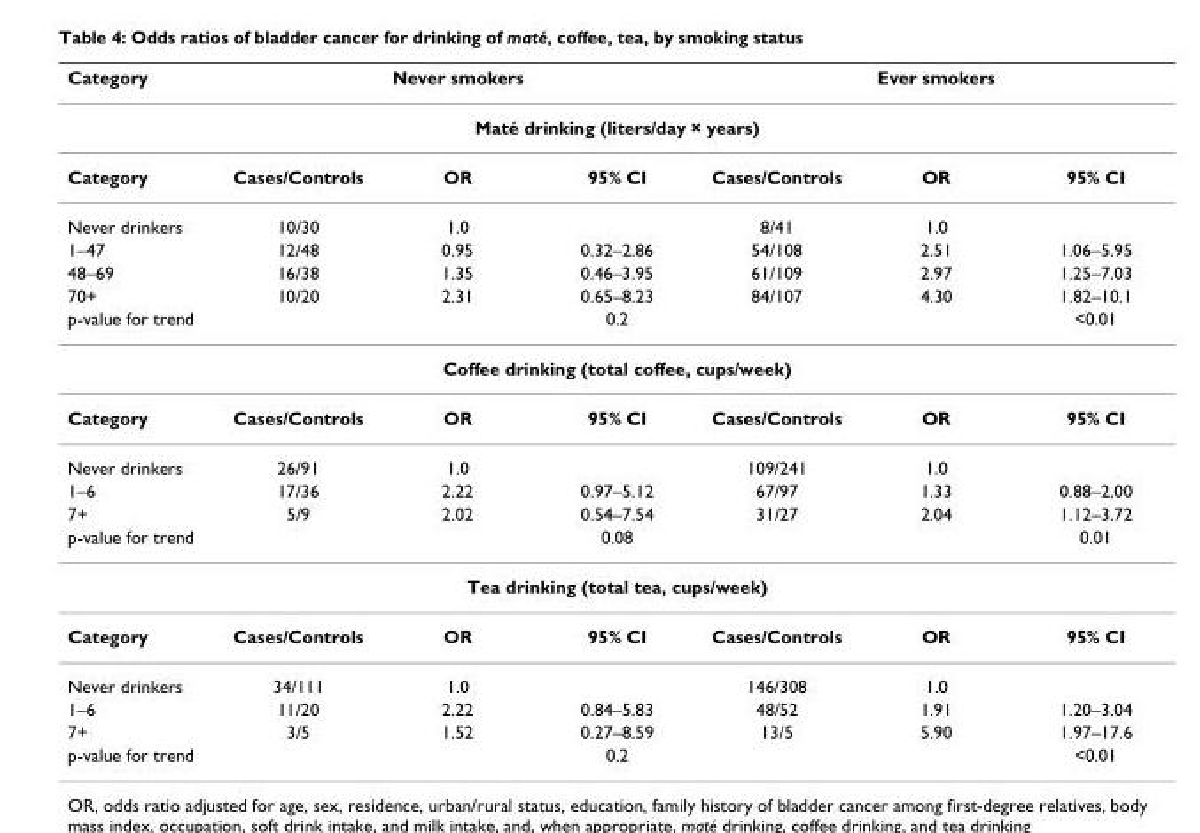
<table><thead><tr><td>Category</td><td colspan="3">Never smokers</td><td colspan="3">Ever smokers</td></tr><tr><td colspan="7">Maté drinking (liters/day × years)</td></tr><tr><td>Category</td><td>Cases/Controls</td><td>OR</td><td>95% CI</td><td>Cases/Controls</td><td>OR</td><td>95% CI</td></tr></thead><tbody><tr><td>Never drinkers</td><td>10/30</td><td>1.0</td><td></td><td>8/41</td><td>1.0</td><td></td></tr><tr><td>1–47</td><td>12/48</td><td>0.95</td><td>0.32–2.86</td><td>54/108</td><td>2.51</td><td>1.06–5.95</td></tr><tr><td>48–69</td><td>16/38</td><td>1.35</td><td>0.46–3.95</td><td>61/109</td><td>2.97</td><td>1.25–7.03</td></tr><tr><td>70+</td><td>10/20</td><td>2.31</td><td>0.65–8.23</td><td>84/107</td><td>4.30</td><td>1.82–10.1</td></tr><tr><td>p-value for trend</td><td></td><td></td><td>0.2</td><td></td><td></td><td>&lt;0.01</td></tr><tr><td colspan="7">Coffee drinking (total coffee, cups/week)</td></tr><tr><td>Category</td><td>Cases/Controls</td><td>OR</td><td>95% CI</td><td>Cases/Controls</td><td>OR</td><td>95% CI</td></tr><tr><td>Never drinkers</td><td>26/91</td><td>1.0</td><td></td><td>109/241</td><td>1.0</td><td></td></tr><tr><td>1–6</td><td>17/36</td><td>2.22</td><td>0.97–5.12</td><td>67/97</td><td>1.33</td><td>0.88–2.00</td></tr><tr><td>7+</td><td>5/9</td><td>2.02</td><td>0.54–7.54</td><td>31/27</td><td>2.04</td><td>1.12–3.72</td></tr><tr><td>p-value for trend</td><td></td><td></td><td>0.08</td><td></td><td></td><td>0.01</td></tr><tr><td colspan="7">Tea drinking (total tea, cups/week)</td></tr><tr><td>Category</td><td>Cases/Controls</td><td>OR</td><td>95% CI</td><td>Cases/Controls</td><td>OR</td><td>95% CI</td></tr><tr><td>Never drinkers</td><td>34/111</td><td>1.0</td><td></td><td>146/308</td><td>1.0</td><td></td></tr><tr><td>1–6</td><td>11/20</td><td>2.22</td><td>0.84–5.83</td><td>48/52</td><td>1.91</td><td>1.20–3.04</td></tr><tr><td>7+</td><td>3/5</td><td>1.52</td><td>0.27–8.59</td><td>13/5</td><td>5.90</td><td>1.97–17.6</td></tr><tr><td>p-value for trend</td><td></td><td></td><td>0.2</td><td></td><td></td><td>&lt;0.01</td></tr></tbody></table>